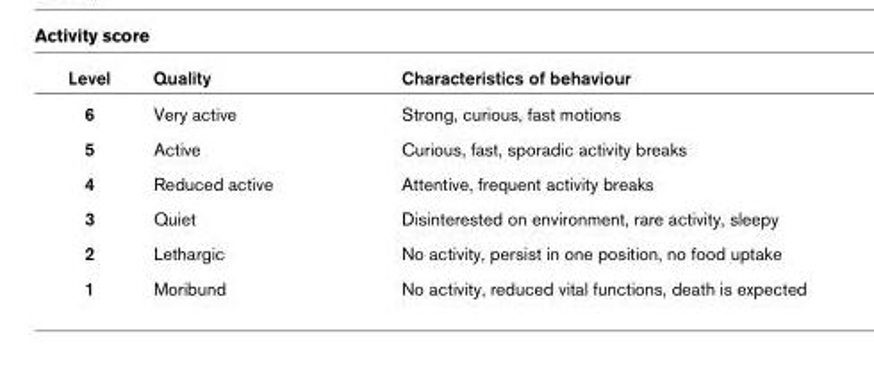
<table><thead><tr><td>Level</td><td>Quality</td><td>Characteristics of behaviour</td></tr></thead><tbody><tr><td>6</td><td>Very active</td><td>Strong, curious, fast motions</td></tr><tr><td>5</td><td>Active</td><td>Curious, fast, sporadic activity breaks</td></tr><tr><td>4</td><td>Reduced active</td><td>Attentive, frequent activity breaks</td></tr><tr><td>3</td><td>Quiet</td><td>Disinterested on environment, rare activity, sleepy</td></tr><tr><td>2</td><td>Lethargic</td><td>No activity, persist in one position, no food uptake</td></tr><tr><td>1</td><td>Moribund</td><td>No activity, reduced vital functions, death is expected</td></tr></tbody></table>